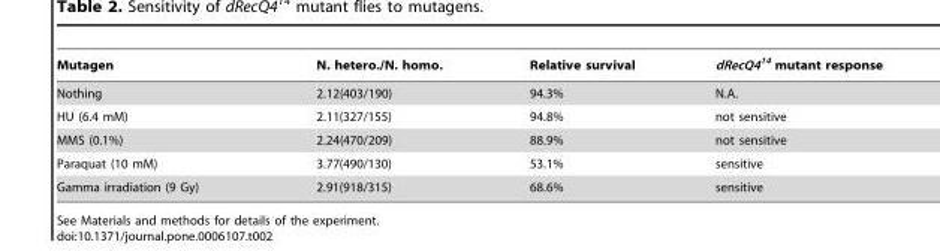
<table><thead><tr><td>Mutagen</td><td>N. hetero./N. homo.</td><td>Relative survival</td><td>dRecQ4<sup>14</sup> mutant response</td></tr></thead><tbody><tr><td>Nothing</td><td>2.12(403/190)</td><td>94.3%</td><td>N.A.</td></tr><tr><td>HU (6.4 mM)</td><td>2.11(327/155)</td><td>94.8%</td><td>not sensitive</td></tr><tr><td>MMS (0.1%)</td><td>2.24(470/209)</td><td>88.9%</td><td>not sensitive</td></tr><tr><td>Paraquat (10 mM)</td><td>3.77(490/130)</td><td>53.1%</td><td>sensitive</td></tr><tr><td>Gamma irradiation (9 Gy)</td><td>2.91(918/315)</td><td>68.6%</td><td>sensitive</td></tr></tbody></table>